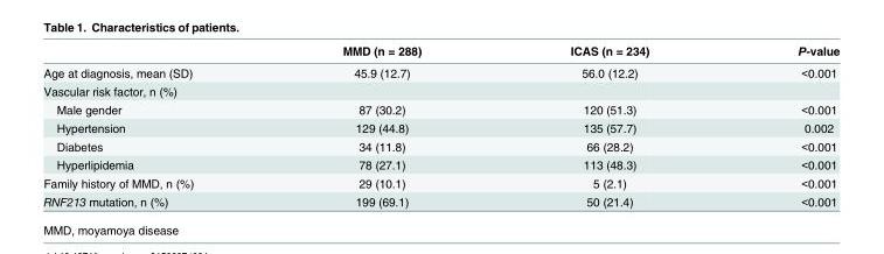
<table><thead><tr><td></td><td>MMD (n = 288)</td><td>ICAS (n = 234)</td><td>P-value</td></tr></thead><tbody><tr><td>Age at diagnosis, mean (SD)</td><td>45.9 (12.7)</td><td>56.0 (12.2)</td><td>&lt;0.001</td></tr><tr><td colspan="4">Vascular risk factor, n (%)</td></tr><tr><td>Male gender</td><td>87 (30.2)</td><td>120 (51.3)</td><td>&lt;0.001</td></tr><tr><td>Hypertension</td><td>129 (44.8)</td><td>135 (57.7)</td><td>0.002</td></tr><tr><td>Diabetes</td><td>34 (11.8)</td><td>66 (28.2)</td><td>&lt;0.001</td></tr><tr><td>Hyperlipidemia</td><td>78 (27.1)</td><td>113 (48.3)</td><td>&lt;0.001</td></tr><tr><td>Family history of MMD, n (%)</td><td>29 (10.1)</td><td>5 (2.1)</td><td>&lt;0.001</td></tr><tr><td>RNF213 mutation, n (%)</td><td>199 (69.1)</td><td>50 (21.4)</td><td>&lt;0.001</td></tr></tbody></table>